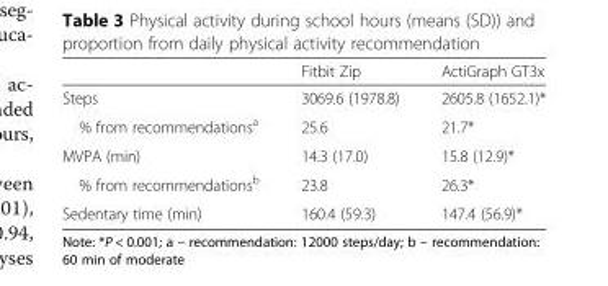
<table><thead><tr><td></td><td>Fitbit Zip</td><td>ActiGraph GT3x</td></tr></thead><tbody><tr><td>Steps</td><td>3069.6 (1978.8)</td><td>2605.8 (1652.1)*</td></tr><tr><td>% from recommendations<sup>a</sup></td><td>25.6</td><td>21.7*</td></tr><tr><td>MVPA (min)</td><td>14.3 (17.0)</td><td>15.8 (12.9)*</td></tr><tr><td>% from recommendations<sup>b</sup></td><td>23.8</td><td>26.3*</td></tr><tr><td>Sedentary time (min)</td><td>160.4 (59.3)</td><td>147.4 (56.9)*</td></tr></tbody></table>